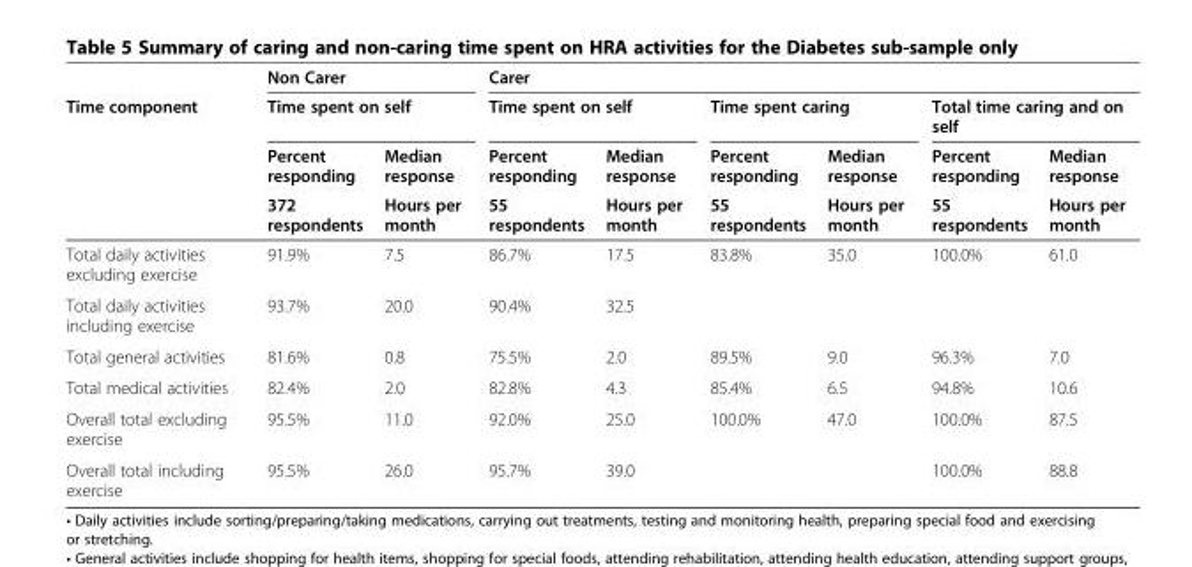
<table><thead><tr><td rowspan="4">Time component</td><td rowspan="2" colspan="2">Non Carer Time spent on self</td><td colspan="6">Carer</td></tr><tr><td colspan="2">Time spent on self</td><td colspan="2">Time spent caring</td><td colspan="2">Total time caring and on self</td></tr><tr><td rowspan="2">Percent responding 372 respondents</td><td rowspan="2">Median response Hours per month</td><td rowspan="2">Percent responding 55 respondents</td><td rowspan="2">Median response Hours per month</td><td rowspan="2">Percent responding 55 respondents</td><td rowspan="2">Median response Hours per month</td><td rowspan="2">Percent responding 55 respondents</td><td rowspan="2">Median response Hours per month</td></tr><tr></tr></thead><tbody><tr><td>Total daily activities excluding exercise</td><td>91.9%</td><td>7.5</td><td>86.7%</td><td>17.5</td><td>83.8%</td><td>35.0</td><td>100.0%</td><td>61.0</td></tr><tr><td>Total daily activities including exercise</td><td>93.7%</td><td>20.0</td><td>90.4%</td><td>32.5</td><td></td><td></td><td></td><td></td></tr><tr><td>Total general activities</td><td>81.6%</td><td>0.8</td><td>75.5%</td><td>2.0</td><td>89.5%</td><td>9.0</td><td>96.3%</td><td>7.0</td></tr><tr><td>Total medical activities</td><td>82.4%</td><td>2.0</td><td>82.8%</td><td>4.3</td><td>85.4%</td><td>6.5</td><td>94.8%</td><td>10.6</td></tr><tr><td>Overall total excluding exercise</td><td>95.5%</td><td>11.0</td><td>92.0%</td><td>25.0</td><td>100.0%</td><td>47.0</td><td>100.0%</td><td>87.5</td></tr><tr><td>Overall total including exercise</td><td>95.5%</td><td>26.0</td><td>95.7%</td><td>39.0</td><td></td><td></td><td>100.0%</td><td>88.8</td></tr></tbody></table>